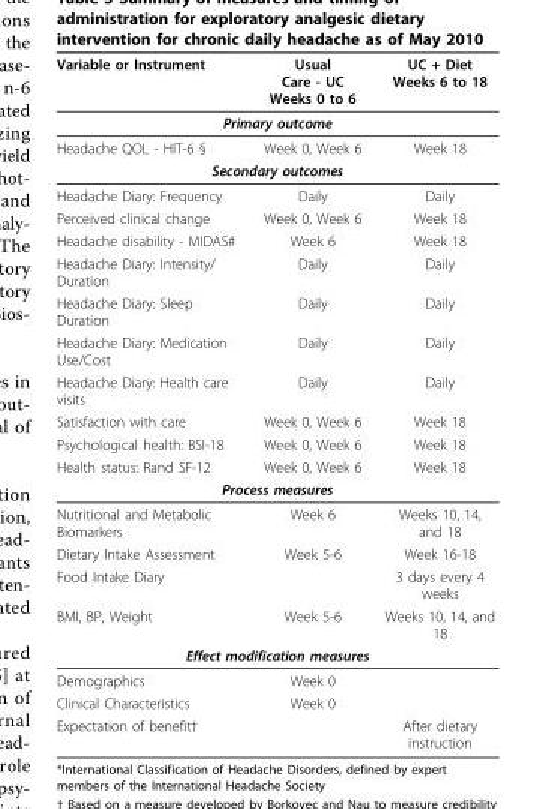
<table><thead><tr><td>Variable or Instrument</td><td>Usual Care - UC Weeks 0 to 6</td><td>UC + Diet Weeks 6 to 18</td></tr></thead><tbody><tr><td colspan="3">Primary outcome</td></tr><tr><td>Headache QOL - HIT-6 §</td><td>Week 0, Week 6</td><td>Week 18</td></tr><tr><td colspan="3">Secondary outcomes</td></tr><tr><td>Headache Diary: Frequency</td><td>Daily</td><td>Daily</td></tr><tr><td>Perceived clinical change</td><td>Week 0, Week 6</td><td>Week 18</td></tr><tr><td>Headache disability - MIDAS#</td><td>Week 6</td><td>Week 18</td></tr><tr><td>Headache Diary: Intensity/ Duration</td><td>Daily</td><td>Daily</td></tr><tr><td>Headache Diary: Sleep Duration</td><td>Daily</td><td>Daily</td></tr><tr><td>Headache Diary: Medication Use/Cost</td><td>Daily</td><td>Daily</td></tr><tr><td>Headache Diary: Health care visits</td><td>Daily</td><td>Daily</td></tr><tr><td>Satisfaction with care</td><td>Week 0, Week 6</td><td>Week 18</td></tr><tr><td>Psychological health: BSI-18</td><td>Week 0, Week 6</td><td>Week 18</td></tr><tr><td>Health status: Rand SF-12</td><td>Week 0, Week 6</td><td>Week 18</td></tr><tr><td colspan="3">Process measures</td></tr><tr><td>Nutritional and Metabolic Biomarkers</td><td>Week 6</td><td>Weeks 10, 14, and 18</td></tr><tr><td>Dietary Intake Assessment</td><td>Week 5-6</td><td>Week 16-18</td></tr><tr><td>Food Intake Diary</td><td></td><td>3 days every 4 weeks</td></tr><tr><td>BMI, BP, Weight</td><td>Week 5-6</td><td>Weeks 10, 14, and 18</td></tr><tr><td colspan="3">Effect modification measures</td></tr><tr><td>Demographics</td><td>Week 0</td><td></td></tr><tr><td>Clinical Characteristics</td><td>Week 0</td><td></td></tr><tr><td>Expectation of benefit†</td><td></td><td>After dietary instruction</td></tr></tbody></table>